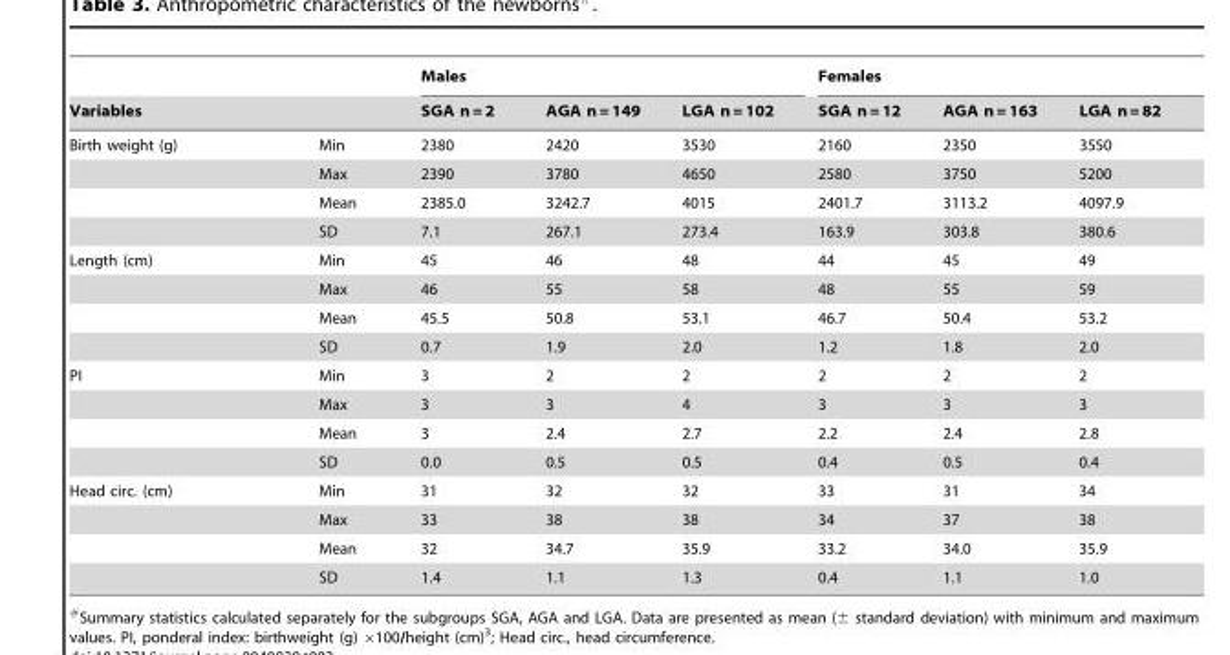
<table><thead><tr><td></td><td></td><td colspan="3">Males</td><td colspan="3">Females</td></tr><tr><td colspan="2">Variables</td><td>SGA n = 2</td><td>AGA n = 149</td><td>LGA n = 102</td><td>SGA n = 12</td><td>AGA n = 163</td><td>LGA n = 82</td></tr></thead><tbody><tr><td rowspan="4">Birth weight (g)</td><td>Min</td><td>2380</td><td>2420</td><td>3530</td><td>2160</td><td>2350</td><td>3550</td></tr><tr><td>Max</td><td>2390</td><td>3780</td><td>4650</td><td>2580</td><td>3750</td><td>5200</td></tr><tr><td>Mean</td><td>2385.0</td><td>3242.7</td><td>4015</td><td>2401.7</td><td>3113.2</td><td>4097.9</td></tr><tr><td>SD</td><td>7.1</td><td>267.1</td><td>273.4</td><td>163.9</td><td>303.8</td><td>380.6</td></tr><tr><td rowspan="4">Length (cm)</td><td>Min</td><td>45</td><td>46</td><td>48</td><td>44</td><td>45</td><td>49</td></tr><tr><td>Max</td><td>46</td><td>55</td><td>58</td><td>48</td><td>55</td><td>59</td></tr><tr><td>Mean</td><td>45.5</td><td>50.8</td><td>53.1</td><td>46.7</td><td>50.4</td><td>53.2</td></tr><tr><td>SD</td><td>0.7</td><td>1.9</td><td>2.0</td><td>1.2</td><td>1.8</td><td>2.0</td></tr><tr><td rowspan="4">PI</td><td>Min</td><td>3</td><td>2</td><td>2</td><td>2</td><td>2</td><td>2</td></tr><tr><td>Max</td><td>3</td><td>3</td><td>4</td><td>3</td><td>3</td><td>3</td></tr><tr><td>Mean</td><td>3</td><td>2.4</td><td>2.7</td><td>2.2</td><td>2.4</td><td>2.8</td></tr><tr><td>SD</td><td>0.0</td><td>0.5</td><td>0.5</td><td>0.4</td><td>0.5</td><td>0.4</td></tr><tr><td rowspan="4">Head circ. (cm)</td><td>Min</td><td>31</td><td>32</td><td>32</td><td>33</td><td>31</td><td>34</td></tr><tr><td>Max</td><td>33</td><td>38</td><td>38</td><td>34</td><td>37</td><td>38</td></tr><tr><td>Mean</td><td>32</td><td>34.7</td><td>35.9</td><td>33.2</td><td>34.0</td><td>35.9</td></tr><tr><td>SD</td><td>1.4</td><td>1.1</td><td>1.3</td><td>0.4</td><td>1.1</td><td>1.0</td></tr></tbody></table>